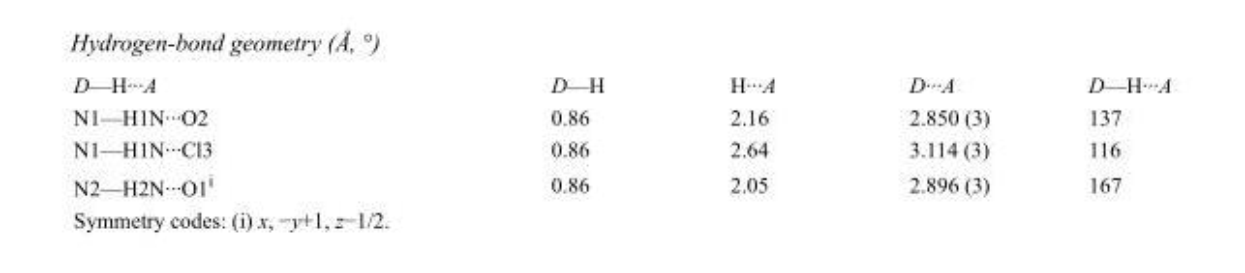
<table><tbody><tr><td>D—H···A</td><td>D—H</td><td>H···A</td><td>D···A</td><td>D—H···A</td></tr><tr><td>N1—H1N···O2</td><td>0.86</td><td>2.16</td><td>2.850 (3)</td><td>137</td></tr><tr><td>N1—H1N···Cl3</td><td>0.86</td><td>2.64</td><td>3.114 (3)</td><td>116</td></tr><tr><td>N2—H2N···O1<sup>i</sup></td><td>0.86</td><td>2.05</td><td>2.896 (3)</td><td>167</td></tr></tbody></table>